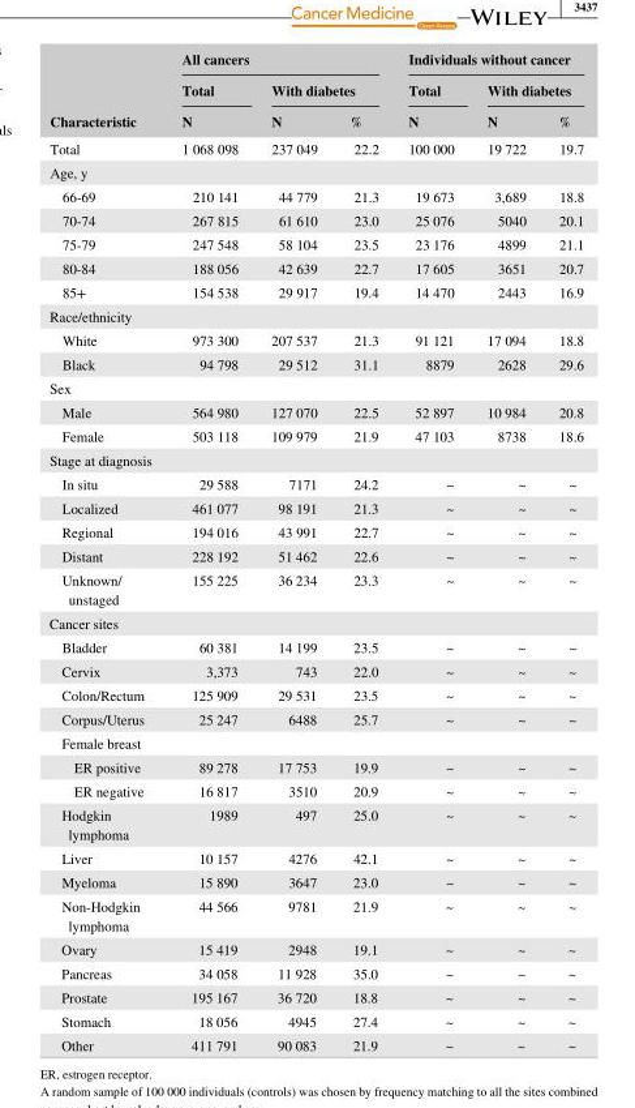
<table><thead><tr><td rowspan="3">Characteristic</td><td colspan="3">All cancers</td><td colspan="3">Individuals without cancer</td></tr><tr><td rowspan="2">Total N</td><td colspan="2">With diabetes</td><td rowspan="2">Total N</td><td colspan="2">With diabetes</td></tr><tr><td>N</td><td>%</td><td>N</td><td>%</td></tr></thead><tbody><tr><td>Total</td><td>1 068 098</td><td>237 049</td><td>22.2</td><td>100 000</td><td>19 722</td><td>19.7</td></tr><tr><td colspan="7">Age, y</td></tr><tr><td>66- 69</td><td>210 141</td><td>44 779</td><td>21.3</td><td>19 673</td><td>3,689</td><td>18.8</td></tr><tr><td>70- 74</td><td>267 815</td><td>61 610</td><td>23.0</td><td>25 076</td><td>5040</td><td>20.1</td></tr><tr><td>75- 79</td><td>247 548</td><td>58 104</td><td>23.5</td><td>23 176</td><td>4899</td><td>21.1</td></tr><tr><td>80- 84</td><td>188 056</td><td>42 639</td><td>22.7</td><td>17 605</td><td>3651</td><td>20.7</td></tr><tr><td>85+</td><td>154 538</td><td>29 917</td><td>19.4</td><td>14 470</td><td>2443</td><td>16.9</td></tr><tr><td colspan="7">Race/ethnicity</td></tr><tr><td>White</td><td>973 300</td><td>207 537</td><td>21.3</td><td>91 121</td><td>17 094</td><td>18.8</td></tr><tr><td>Black</td><td>94 798</td><td>29 512</td><td>31.1</td><td>8879</td><td>2628</td><td>29.6</td></tr><tr><td colspan="7">Sex</td></tr><tr><td>Male</td><td>564 980</td><td>127 070</td><td>22.5</td><td>52 897</td><td>10 984</td><td>20.8</td></tr><tr><td>Female</td><td>503 118</td><td>109 979</td><td>21.9</td><td>47 103</td><td>8738</td><td>18.6</td></tr><tr><td colspan="7">Stage at diagnosis</td></tr><tr><td>In situ</td><td>29 588</td><td>7171</td><td>24.2</td><td>~</td><td>~</td><td>~</td></tr><tr><td>Localized</td><td>461 077</td><td>98 191</td><td>21.3</td><td>~</td><td>~</td><td>~</td></tr><tr><td>Regional</td><td>194 016</td><td>43 991</td><td>22.7</td><td>~</td><td>~</td><td>~</td></tr><tr><td>Distant</td><td>228 192</td><td>51 462</td><td>22.6</td><td>~</td><td>~</td><td>~</td></tr><tr><td>Unknown/ unstaged</td><td>155 225</td><td>36 234</td><td>23.3</td><td>~</td><td>~</td><td>~</td></tr><tr><td colspan="7">Cancer sites</td></tr><tr><td>Bladder</td><td>60 381</td><td>14 199</td><td>23.5</td><td>~</td><td>~</td><td>~</td></tr><tr><td>Cervix</td><td>3,373</td><td>743</td><td>22.0</td><td>~</td><td>~</td><td>~</td></tr><tr><td>Colon/Rectum</td><td>125 909</td><td>29 531</td><td>23.5</td><td>~</td><td>~</td><td>~</td></tr><tr><td>Corpus/Uterus</td><td>25 247</td><td>6488</td><td>25.7</td><td>~</td><td>~</td><td>~</td></tr><tr><td colspan="7">Female breast</td></tr><tr><td>ER positive</td><td>89 278</td><td>17 753</td><td>19.9</td><td>~</td><td>~</td><td>~</td></tr><tr><td>ER negative</td><td>16 817</td><td>3510</td><td>20.9</td><td>~</td><td>~</td><td>~</td></tr><tr><td>Hodgkin lymphoma</td><td>1989</td><td>497</td><td>25.0</td><td>~</td><td>~</td><td>~</td></tr><tr><td>Liver</td><td>10 157</td><td>4276</td><td>42.1</td><td>~</td><td>~</td><td>~</td></tr><tr><td>Myeloma</td><td>15 890</td><td>3647</td><td>23.0</td><td>~</td><td>~</td><td>~</td></tr><tr><td>Non- Hodgkin lymphoma</td><td>44 566</td><td>9781</td><td>21.9</td><td>~</td><td>~</td><td>~</td></tr><tr><td>Ovary</td><td>15 419</td><td>2948</td><td>19.1</td><td>~</td><td>~</td><td>~</td></tr><tr><td>Pancreas</td><td>34 058</td><td>11 928</td><td>35.0</td><td>~</td><td>~</td><td>~</td></tr><tr><td>Prostate</td><td>195 167</td><td>36 720</td><td>18.8</td><td>~</td><td>~</td><td>~</td></tr><tr><td>Stomach</td><td>18 056</td><td>4945</td><td>27.4</td><td>~</td><td>~</td><td>~</td></tr><tr><td>Other</td><td>411 791</td><td>90 083</td><td>21.9</td><td>~</td><td>~</td><td>~</td></tr></tbody></table>